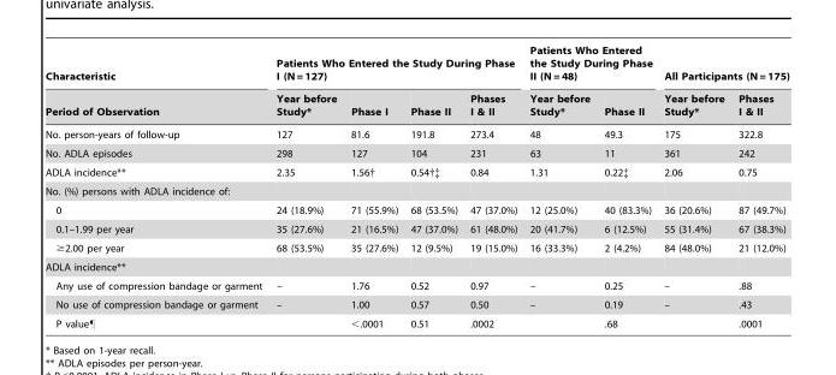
<table><thead><tr><td rowspan="2">Characteristic Period of Observation</td><td colspan="4">Patients Who Entered the Study During Phase I (N = 127)</td><td colspan="2">Patients Who Entered the Study During Phase II (N = 48)</td><td colspan="2">All Participants (N = 175)</td></tr><tr><td>Year before Study*</td><td>Phase I</td><td>Phase II</td><td>Phases I &amp; II</td><td>Year before Study*</td><td>Phase II</td><td>Year before Study*</td><td>Phases I &amp; II</td></tr></thead><tbody><tr><td>No. person-years of follow-up</td><td>127</td><td>81.6</td><td>191.8</td><td>273.4</td><td>48</td><td>49.3</td><td>175</td><td>322.8</td></tr><tr><td>No. ADLA episodes</td><td>298</td><td>127</td><td>104</td><td>231</td><td>63</td><td>11</td><td>361</td><td>242</td></tr><tr><td>ADLA incidence**</td><td>2.35</td><td>1.56†</td><td>0.54†‡</td><td>0.84</td><td>1.31</td><td>0.22‡</td><td>2.06</td><td>0.75</td></tr><tr><td colspan="9">No. (%) persons with ADLA incidence of:</td></tr><tr><td>0</td><td>24 (18.9%)</td><td>71 (55.9%)</td><td>68 (53.5%)</td><td>47 (37.0%)</td><td>12 (25.0%)</td><td>40 (83.3%)</td><td>36 (20.6%)</td><td>87 (49.7%)</td></tr><tr><td>0.1–1.99 per year</td><td>35 (27.6%)</td><td>21 (16.5%)</td><td>47 (37.0%)</td><td>61 (48.0%)</td><td>20 (41.7%)</td><td>6 (12.5%)</td><td>55 (31.4%)</td><td>67 (38.3%)</td></tr><tr><td>≥2.00 per year</td><td>68 (53.5%)</td><td>35 (27.6%)</td><td>12 (9.5%)</td><td>19 (15.0%)</td><td>16 (33.3%)</td><td>2 (4.2%)</td><td>84 (48.0%)</td><td>21 (12.0%)</td></tr><tr><td colspan="9">ADLA incidence**</td></tr><tr><td>Any use of compression bandage or garment</td><td>–</td><td>1.76</td><td>0.52</td><td>0.97</td><td>–</td><td>0.25</td><td>–</td><td>.88</td></tr><tr><td>No use of compression bandage or garment</td><td>–</td><td>1.00</td><td>0.57</td><td>0.50</td><td>–</td><td>0.19</td><td>–</td><td>.43</td></tr><tr><td>P value¶</td><td></td><td>&lt;.0001</td><td>0.51</td><td>.0002</td><td></td><td>.68</td><td></td><td>.0001</td></tr></tbody></table>